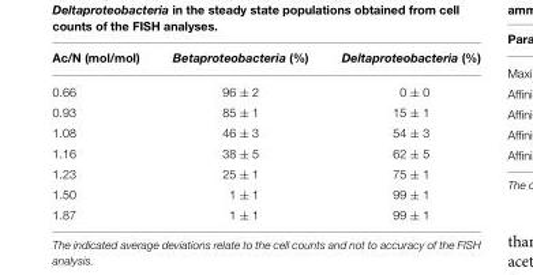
<table><thead><tr><td>Ac/N (mol/mol)</td><td>Betaproteobacteria (%)</td><td>Deltaproteobacteria (%)</td></tr></thead><tbody><tr><td>0.66</td><td>96 ± 2</td><td>0 ± 0</td></tr><tr><td>0.93</td><td>85 ± 1</td><td>15 ± 1</td></tr><tr><td>1.08</td><td>46 ± 3</td><td>54 ± 3</td></tr><tr><td>1.16</td><td>38 ± 5</td><td>62 ± 5</td></tr><tr><td>1.23</td><td>25 ± 1</td><td>75 ± 1</td></tr><tr><td>1.50</td><td>1 ± 1</td><td>99 ± 1</td></tr><tr><td>1.87</td><td>1 ± 1</td><td>99 ± 1</td></tr></tbody></table>